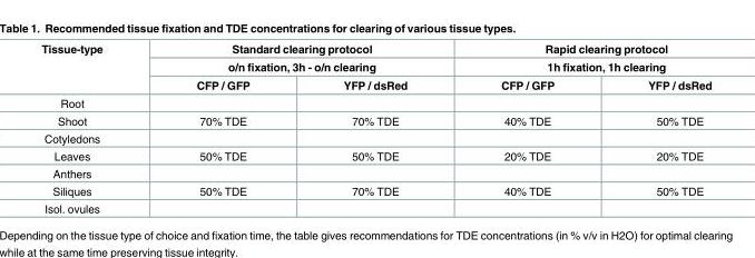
<table><thead><tr><td rowspan="3">Tissue-type</td><td rowspan="2" colspan="2">Standard clearing protocol o/n fixation, 3h - o/n clearing</td><td rowspan="2" colspan="2">Rapid clearing protocol 1h fixation, 1h clearing</td></tr><tr></tr><tr><td>CFP / GFP</td><td>YFP / dsRed</td><td>CFP / GFP</td><td>YFP / dsRed</td></tr></thead><tbody><tr><td colspan="5">Root</td></tr><tr><td>Shoot</td><td>70% TDE</td><td>70% TDE</td><td>40% TDE</td><td>50% TDE</td></tr><tr><td colspan="5">Cotyledons</td></tr><tr><td>Leaves</td><td>50% TDE</td><td>50% TDE</td><td>20% TDE</td><td>20% TDE</td></tr><tr><td colspan="5">Anthers</td></tr><tr><td>Siliques</td><td>50% TDE</td><td>70% TDE</td><td>40% TDE</td><td>50% TDE</td></tr><tr><td>Isol. ovules</td><td></td><td></td><td></td><td></td></tr></tbody></table>